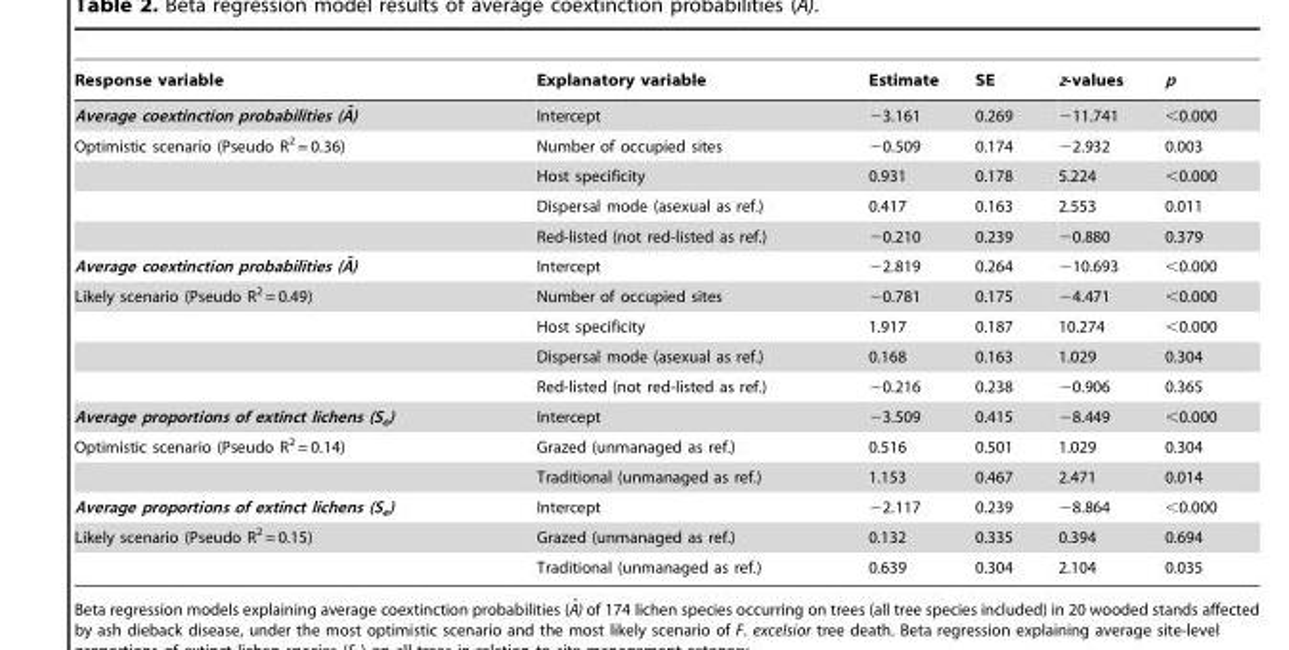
<table><thead><tr><td>Response variable</td><td>Explanatory variable</td><td>Estimate</td><td>SE</td><td>z-values</td><td>p</td></tr></thead><tbody><tr><td>Average coextinction probabilities (A-)</td><td>Intercept</td><td>−3.161</td><td>0.269</td><td>−11.741</td><td>&lt;0.000</td></tr><tr><td rowspan="4">Optimistic scenario (Pseudo R<sup>2</sup> = 0.36)</td><td>Number of occupied sites</td><td>−0.509</td><td>0.174</td><td>−2.932</td><td>0.003</td></tr><tr><td>Host specificity</td><td>0.931</td><td>0.178</td><td>5.224</td><td>&lt;0.000</td></tr><tr><td>Dispersal mode (asexual as ref.)</td><td>0.417</td><td>0.163</td><td>2.553</td><td>0.011</td></tr><tr><td>Red-listed (not red-listed as ref.)</td><td>−0.210</td><td>0.239</td><td>−0.880</td><td>0.379</td></tr><tr><td>Average coextinction probabilities (A-)</td><td>Intercept</td><td>−2.819</td><td>0.264</td><td>−10.693</td><td>&lt;0.000</td></tr><tr><td rowspan="4">Likely scenario (Pseudo R<sup>2</sup> = 0.49)</td><td>Number of occupied sites</td><td>−0.781</td><td>0.175</td><td>−4.471</td><td>&lt;0.000</td></tr><tr><td>Host specificity</td><td>1.917</td><td>0.187</td><td>10.274</td><td>&lt;0.000</td></tr><tr><td>Dispersal mode (asexual as ref.)</td><td>0.168</td><td>0.163</td><td>1.029</td><td>0.304</td></tr><tr><td>Red-listed (not red-listed as ref.)</td><td>−0.216</td><td>0.238</td><td>−0.906</td><td>0.365</td></tr><tr><td>Average proportions of extinct lichens (S<sub>e</sub>)</td><td>Intercept</td><td>−3.509</td><td>0.415</td><td>−8.449</td><td>&lt;0.000</td></tr><tr><td rowspan="2">Optimistic scenario (Pseudo R<sup>2</sup> = 0.14)</td><td>Grazed (unmanaged as ref.)</td><td>0.516</td><td>0.501</td><td>1.029</td><td>0.304</td></tr><tr><td>Traditional (unmanaged as ref.)</td><td>1.153</td><td>0.467</td><td>2.471</td><td>0.014</td></tr><tr><td>Average proportions of extinct lichens (S<sub>e</sub>)</td><td>Intercept</td><td>−2.117</td><td>0.239</td><td>−8.864</td><td>&lt;0.000</td></tr><tr><td rowspan="2">Likely scenario (Pseudo R<sup>2</sup> = 0.15)</td><td>Grazed (unmanaged as ref.)</td><td>0.132</td><td>0.335</td><td>0.394</td><td>0.694</td></tr><tr><td>Traditional (unmanaged as ref.)</td><td>0.639</td><td>0.304</td><td>2.104</td><td>0.035</td></tr></tbody></table>